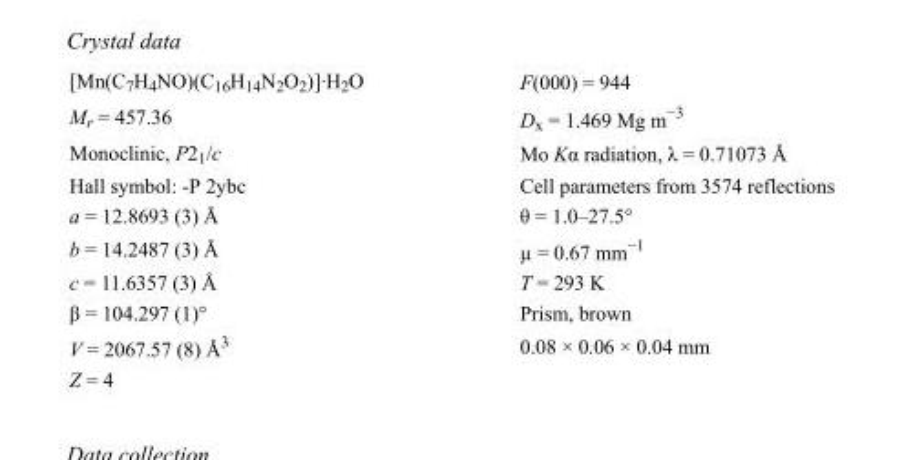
<table><tbody><tr><td>[Mn(C<sub>7</sub>H<sub>4</sub>NO)(C<sub>16</sub>H<sub>14</sub>N<sub>2</sub>O<sub>2</sub>)]·H<sub>2</sub>O</td><td>F(000) = 944</td></tr><tr><td>M<sub>r</sub> = 457.36</td><td>D<sub>x</sub> = 1.469 Mg m<sup>−3</sup></td></tr><tr><td>Monoclinic, P2<sub>1</sub>/c</td><td>Mo Kα radiation, λ = 0.71073 Å</td></tr><tr><td>Hall symbol: -P 2ybc</td><td>Cell parameters from 3574 reflections</td></tr><tr><td>a = 12.8693 (3) Å</td><td>θ = 1.0–27.5°</td></tr><tr><td>b = 14.2487 (3) Å</td><td>µ = 0.67 mm<sup>−1</sup></td></tr><tr><td>c = 11.6357 (3) Å</td><td>T = 293 K</td></tr><tr><td>β = 104.297 (1)°</td><td>Prism, brown</td></tr><tr><td>V = 2067.57 (8) Å<sup>3</sup></td><td>0.08 × 0.06 × 0.04 mm</td></tr><tr><td>Z = 4</td><td></td></tr></tbody></table>